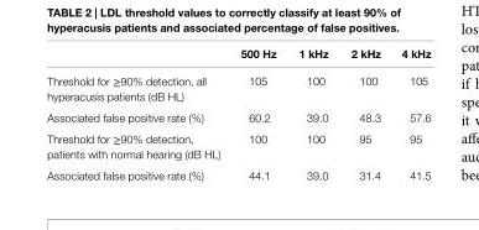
<table><thead><tr><td></td><td>500 hz</td><td>1 khz</td><td>2 khz</td><td>4 khz</td></tr></thead><tbody><tr><td>Threshold for ≥90% detection, all hyperacusis patients (dB HL)</td><td>105</td><td>100</td><td>100</td><td>105</td></tr><tr><td>Associated false positive rate (%)</td><td>60.2</td><td>39.0</td><td>48.3</td><td>57.6</td></tr><tr><td>Threshold for ≥90% detection, patients with normal hearing (dB HL)</td><td>100</td><td>100</td><td>95</td><td>95</td></tr><tr><td>Associated false positive rate (%)</td><td>44.1</td><td>39.0</td><td>31.4</td><td>41.5</td></tr></tbody></table>